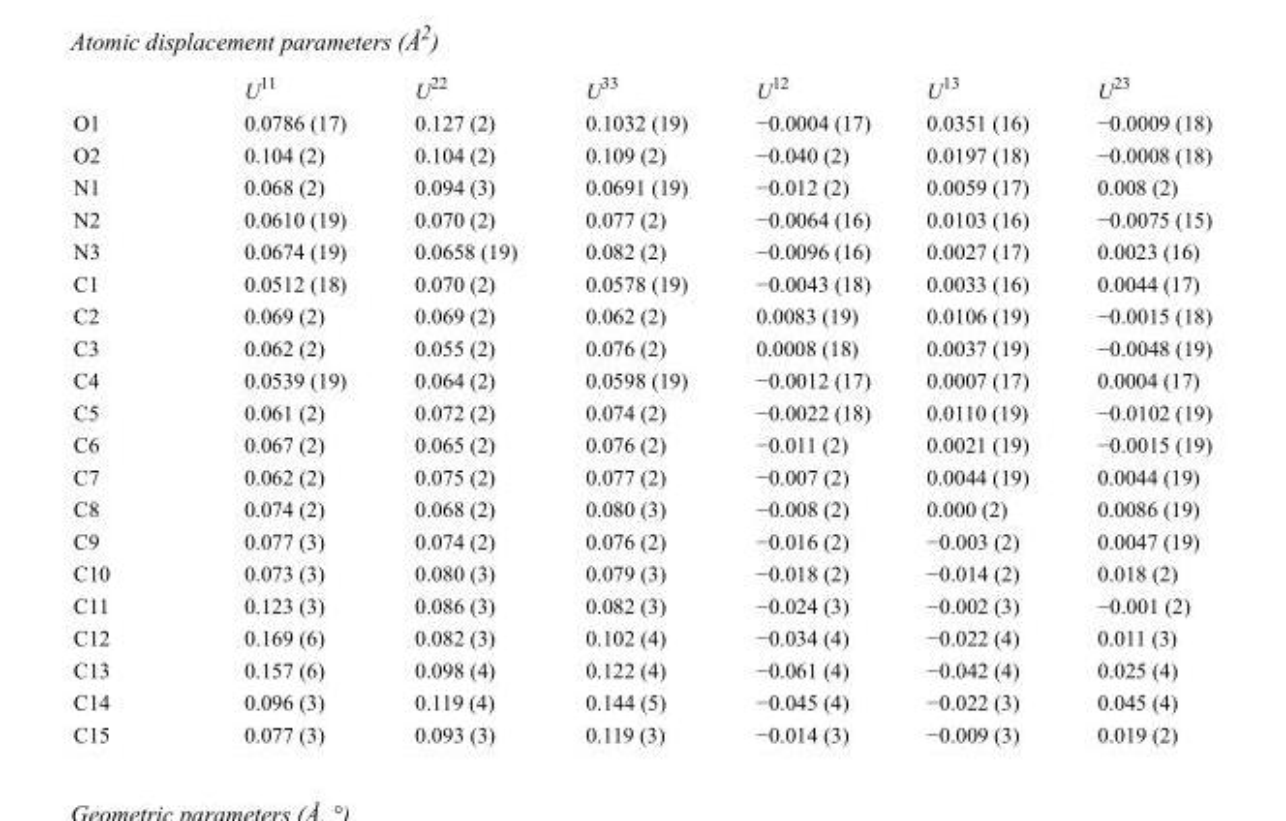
<table><thead><tr><td></td><td>U<sup>11</sup></td><td>U<sup>22</sup></td><td>U<sup>33</sup></td><td>U<sup>12</sup></td><td>U<sup>13</sup></td><td>U<sup>23</sup></td></tr></thead><tbody><tr><td>O1</td><td>0.0786 (17)</td><td>0.127 (2)</td><td>0.1032 (19)</td><td>−0.0004 (17)</td><td>0.0351 (16)</td><td>−0.0009 (18)</td></tr><tr><td>O2</td><td>0.104 (2)</td><td>0.104 (2)</td><td>0.109 (2)</td><td>−0.040 (2)</td><td>0.0197 (18)</td><td>−0.0008 (18)</td></tr><tr><td>N1</td><td>0.068 (2)</td><td>0.094 (3)</td><td>0.0691 (19)</td><td>−0.012 (2)</td><td>0.0059 (17)</td><td>0.008 (2)</td></tr><tr><td>N2</td><td>0.0610 (19)</td><td>0.070 (2)</td><td>0.077 (2)</td><td>−0.0064 (16)</td><td>0.0103 (16)</td><td>−0.0075 (15)</td></tr><tr><td>N3</td><td>0.0674 (19)</td><td>0.0658 (19)</td><td>0.082 (2)</td><td>−0.0096 (16)</td><td>0.0027 (17)</td><td>0.0023 (16)</td></tr><tr><td>C1</td><td>0.0512 (18)</td><td>0.070 (2)</td><td>0.0578 (19)</td><td>−0.0043 (18)</td><td>0.0033 (16)</td><td>0.0044 (17)</td></tr><tr><td>C2</td><td>0.069 (2)</td><td>0.069 (2)</td><td>0.062 (2)</td><td>0.0083 (19)</td><td>0.0106 (19)</td><td>−0.0015 (18)</td></tr><tr><td>C3</td><td>0.062 (2)</td><td>0.055 (2)</td><td>0.076 (2)</td><td>0.0008 (18)</td><td>0.0037 (19)</td><td>−0.0048 (19)</td></tr><tr><td>C4</td><td>0.0539 (19)</td><td>0.064 (2)</td><td>0.0598 (19)</td><td>−0.0012 (17)</td><td>0.0007 (17)</td><td>0.0004 (17)</td></tr><tr><td>C5</td><td>0.061 (2)</td><td>0.072 (2)</td><td>0.074 (2)</td><td>−0.0022 (18)</td><td>0.0110 (19)</td><td>−0.0102 (19)</td></tr><tr><td>C6</td><td>0.067 (2)</td><td>0.065 (2)</td><td>0.076 (2)</td><td>−0.011 (2)</td><td>0.0021 (19)</td><td>−0.0015 (19)</td></tr><tr><td>C7</td><td>0.062 (2)</td><td>0.075 (2)</td><td>0.077 (2)</td><td>−0.007 (2)</td><td>0.0044 (19)</td><td>0.0044 (19)</td></tr><tr><td>C8</td><td>0.074 (2)</td><td>0.068 (2)</td><td>0.080 (3)</td><td>−0.008 (2)</td><td>0.000 (2)</td><td>0.0086 (19)</td></tr><tr><td>C9</td><td>0.077 (3)</td><td>0.074 (2)</td><td>0.076 (2)</td><td>−0.016 (2)</td><td>−0.003 (2)</td><td>0.0047 (19)</td></tr><tr><td>C10</td><td>0.073 (3)</td><td>0.080 (3)</td><td>0.079 (3)</td><td>−0.018 (2)</td><td>−0.014 (2)</td><td>0.018 (2)</td></tr><tr><td>C11</td><td>0.123 (3)</td><td>0.086 (3)</td><td>0.082 (3)</td><td>−0.024 (3)</td><td>−0.002 (3)</td><td>−0.001 (2)</td></tr><tr><td>C12</td><td>0.169 (6)</td><td>0.082 (3)</td><td>0.102 (4)</td><td>−0.034 (4)</td><td>−0.022 (4)</td><td>0.011 (3)</td></tr><tr><td>C13</td><td>0.157 (6)</td><td>0.098 (4)</td><td>0.122 (4)</td><td>−0.061 (4)</td><td>−0.042 (4)</td><td>0.025 (4)</td></tr><tr><td>C14</td><td>0.096 (3)</td><td>0.119 (4)</td><td>0.144 (5)</td><td>−0.045 (4)</td><td>−0.022 (3)</td><td>0.045 (4)</td></tr><tr><td>C15</td><td>0.077 (3)</td><td>0.093 (3)</td><td>0.119 (3)</td><td>−0.014 (3)</td><td>−0.009 (3)</td><td>0.019 (2)</td></tr></tbody></table>